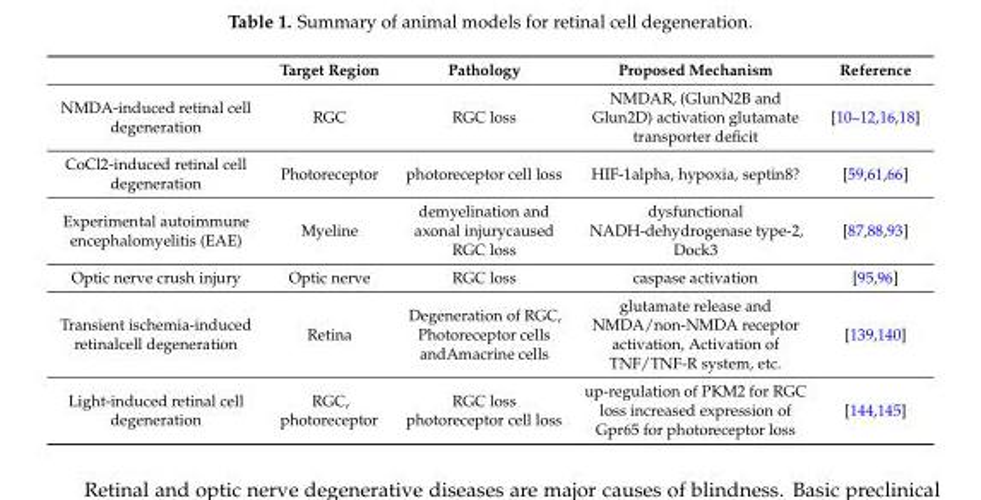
<table><thead><tr><td></td><td>Target Region</td><td>Pathology</td><td>Proposed Mechanism</td><td>Reference</td></tr></thead><tbody><tr><td>NMDA-induced retinal cell degeneration</td><td>RGC</td><td>RGC loss</td><td>NMDAR, (GlunN2B and Glun2D) activation glutamate transporter deficit</td><td>[10–12,16,18]</td></tr><tr><td>CoCl2-induced retinal cell degeneration</td><td>Photoreceptor</td><td>photoreceptor cell loss</td><td>HIF-1alpha, hypoxia, septin8?</td><td>[59,61,66]</td></tr><tr><td>Experimental autoimmune encephalomyelitis (EAE)</td><td>Myeline</td><td>demyelination and axonal injurycaused RGC loss</td><td>dysfunctional NADH-dehydrogenase type-2, Dock3</td><td>[87,88,93]</td></tr><tr><td>Optic nerve crush injury</td><td>Optic nerve</td><td>RGC loss</td><td>caspase activation</td><td>[95,96]</td></tr><tr><td>Transient ischemia-induced retinalcell degeneration</td><td>Retina</td><td>Degeneration of RGC, Photoreceptor cells andAmacrine cells</td><td>glutamate release and NMDA/non-NMDA receptor activation, Activation of TNF/TNF-R system, etc.</td><td>[139,140]</td></tr><tr><td>Light-induced retinal cell degeneration</td><td>RGC, photoreceptor</td><td>RGC loss photoreceptor cell loss</td><td>up-regulation of PKM2 for RGC loss increased expression of Gpr65 for photoreceptor loss</td><td>[144,145]</td></tr></tbody></table>